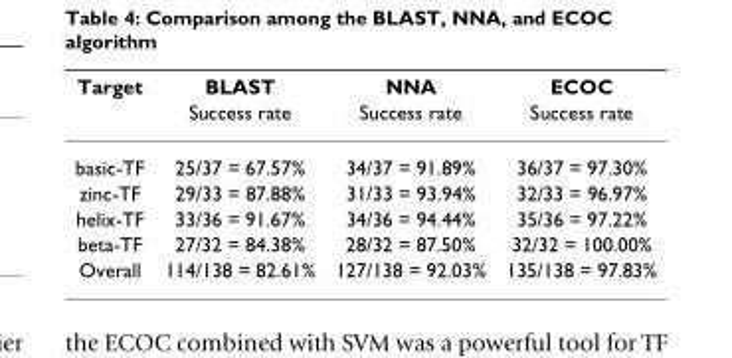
<table><thead><tr><td rowspan="2">Target</td><td rowspan="2">BLAST Success rate</td><td rowspan="2">NNA Success rate</td><td rowspan="2">ECOC Success rate</td></tr><tr></tr></thead><tbody><tr><td>basic-TF</td><td>25/37 = 67.57%</td><td>34/37 = 91.89%</td><td>36/37 = 97.30%</td></tr><tr><td>zinc-TF</td><td>29/33 = 87.88%</td><td>31/33 = 93.94%</td><td>32/33 = 96.97%</td></tr><tr><td>helix-TF</td><td>33/36 = 91.67%</td><td>34/36 = 94.44%</td><td>35/36 = 97.22%</td></tr><tr><td>beta-TF</td><td>27/32 = 84.38%</td><td>28/32 = 87.50%</td><td>32/32 = 100.00%</td></tr><tr><td>Overall</td><td>114/138 = 82.61%</td><td>127/138 = 92.03%</td><td>135/138 = 97.83%</td></tr></tbody></table>